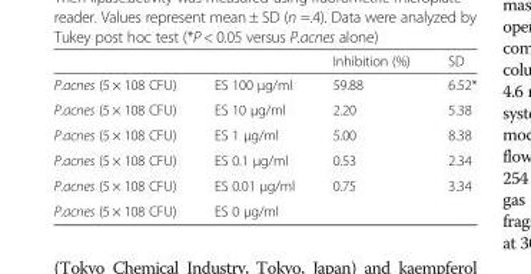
<table><thead><tr><td></td><td></td><td>Inhibition (%)</td><td>SD</td></tr></thead><tbody><tr><td>P.acnes (5 × 108 CFU)</td><td>ES 100 μg/ml</td><td>59.88</td><td>6.52*</td></tr><tr><td>P.acnes (5 × 108 CFU)</td><td>ES 10 μg/ml</td><td>2.20</td><td>5.38</td></tr><tr><td>P.acnes (5 × 108 CFU)</td><td>ES 1 μg/ml</td><td>5.00</td><td>8.38</td></tr><tr><td>P.acnes (5 × 108 CFU)</td><td>ES 0.1 μg/ml</td><td>0.53</td><td>2.34</td></tr><tr><td>P.acnes (5 × 108 CFU)</td><td>ES 0.01 μg/ml</td><td>0.75</td><td>3.34</td></tr><tr><td>P.acnes (5 × 108 CFU)</td><td>ES 0 μg/ml</td><td></td><td></td></tr></tbody></table>